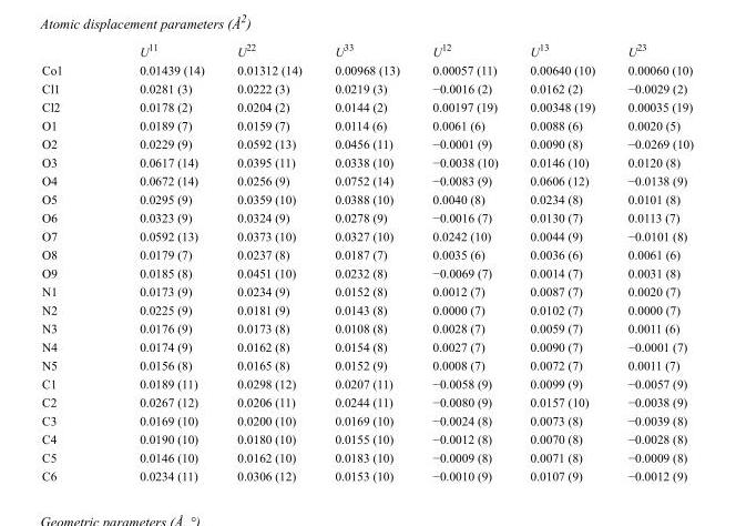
<table><thead><tr><td></td><td>U<sup>11</sup></td><td>U<sup>22</sup></td><td>U<sup>33</sup></td><td>U<sup>12</sup></td><td>U<sup>13</sup></td><td>U<sup>23</sup></td></tr></thead><tbody><tr><td>Co1</td><td>0.01439 (14)</td><td>0.01312 (14)</td><td>0.00968 (13)</td><td>0.00057 (11)</td><td>0.00640 (10)</td><td>0.00060 (10)</td></tr><tr><td>Cl1</td><td>0.0281 (3)</td><td>0.0222 (3)</td><td>0.0219 (3)</td><td>−0.0016 (2)</td><td>0.0162 (2)</td><td>−0.0029 (2)</td></tr><tr><td>Cl2</td><td>0.0178 (2)</td><td>0.0204 (2)</td><td>0.0144 (2)</td><td>0.00197 (19)</td><td>0.00348 (19)</td><td>0.00035 (19)</td></tr><tr><td>O1</td><td>0.0189 (7)</td><td>0.0159 (7)</td><td>0.0114 (6)</td><td>0.0061 (6)</td><td>0.0088 (6)</td><td>0.0020 (5)</td></tr><tr><td>O2</td><td>0.0229 (9)</td><td>0.0592 (13)</td><td>0.0456 (11)</td><td>−0.0001 (9)</td><td>0.0090 (8)</td><td>−0.0269 (10)</td></tr><tr><td>O3</td><td>0.0617 (14)</td><td>0.0395 (11)</td><td>0.0338 (10)</td><td>−0.0038 (10)</td><td>0.0146 (10)</td><td>0.0120 (8)</td></tr><tr><td>O4</td><td>0.0672 (14)</td><td>0.0256 (9)</td><td>0.0752 (14)</td><td>−0.0083 (9)</td><td>0.0606 (12)</td><td>−0.0138 (9)</td></tr><tr><td>O5</td><td>0.0295 (9)</td><td>0.0359 (10)</td><td>0.0388 (10)</td><td>0.0040 (8)</td><td>0.0234 (8)</td><td>0.0101 (8)</td></tr><tr><td>O6</td><td>0.0323 (9)</td><td>0.0324 (9)</td><td>0.0278 (9)</td><td>−0.0016 (7)</td><td>0.0130 (7)</td><td>0.0113 (7)</td></tr><tr><td>O7</td><td>0.0592 (13)</td><td>0.0373 (10)</td><td>0.0327 (10)</td><td>0.0242 (10)</td><td>0.0044 (9)</td><td>−0.0101 (8)</td></tr><tr><td>O8</td><td>0.0179 (7)</td><td>0.0237 (8)</td><td>0.0187 (7)</td><td>0.0035 (6)</td><td>0.0036 (6)</td><td>0.0061 (6)</td></tr><tr><td>O9</td><td>0.0185 (8)</td><td>0.0451 (10)</td><td>0.0232 (8)</td><td>−0.0069 (7)</td><td>0.0014 (7)</td><td>0.0031 (8)</td></tr><tr><td>N1</td><td>0.0173 (9)</td><td>0.0234 (9)</td><td>0.0152 (8)</td><td>0.0012 (7)</td><td>0.0087 (7)</td><td>0.0020 (7)</td></tr><tr><td>N2</td><td>0.0225 (9)</td><td>0.0181 (9)</td><td>0.0143 (8)</td><td>0.0000 (7)</td><td>0.0102 (7)</td><td>0.0000 (7)</td></tr><tr><td>N3</td><td>0.0176 (9)</td><td>0.0173 (8)</td><td>0.0108 (8)</td><td>0.0028 (7)</td><td>0.0059 (7)</td><td>0.0011 (6)</td></tr><tr><td>N4</td><td>0.0174 (9)</td><td>0.0162 (8)</td><td>0.0154 (8)</td><td>0.0027 (7)</td><td>0.0090 (7)</td><td>−0.0001 (7)</td></tr><tr><td>N5</td><td>0.0156 (8)</td><td>0.0165 (8)</td><td>0.0152 (9)</td><td>0.0008 (7)</td><td>0.0072 (7)</td><td>0.0011 (7)</td></tr><tr><td>C1</td><td>0.0189 (11)</td><td>0.0298 (12)</td><td>0.0207 (11)</td><td>−0.0058 (9)</td><td>0.0099 (9)</td><td>−0.0057 (9)</td></tr><tr><td>C2</td><td>0.0267 (12)</td><td>0.0206 (11)</td><td>0.0244 (11)</td><td>−0.0080 (9)</td><td>0.0157 (10)</td><td>−0.0038 (9)</td></tr><tr><td>C3</td><td>0.0169 (10)</td><td>0.0200 (10)</td><td>0.0169 (10)</td><td>−0.0024 (8)</td><td>0.0073 (8)</td><td>−0.0039 (8)</td></tr><tr><td>C4</td><td>0.0190 (10)</td><td>0.0180 (10)</td><td>0.0155 (10)</td><td>−0.0012 (8)</td><td>0.0070 (8)</td><td>−0.0028 (8)</td></tr><tr><td>C5</td><td>0.0146 (10)</td><td>0.0162 (10)</td><td>0.0183 (10)</td><td>−0.0009 (8)</td><td>0.0071 (8)</td><td>−0.0009 (8)</td></tr><tr><td>C6</td><td>0.0234 (11)</td><td>0.0306 (12)</td><td>0.0153 (10)</td><td>−0.0010 (9)</td><td>0.0107 (9)</td><td>−0.0012 (9)</td></tr></tbody></table>